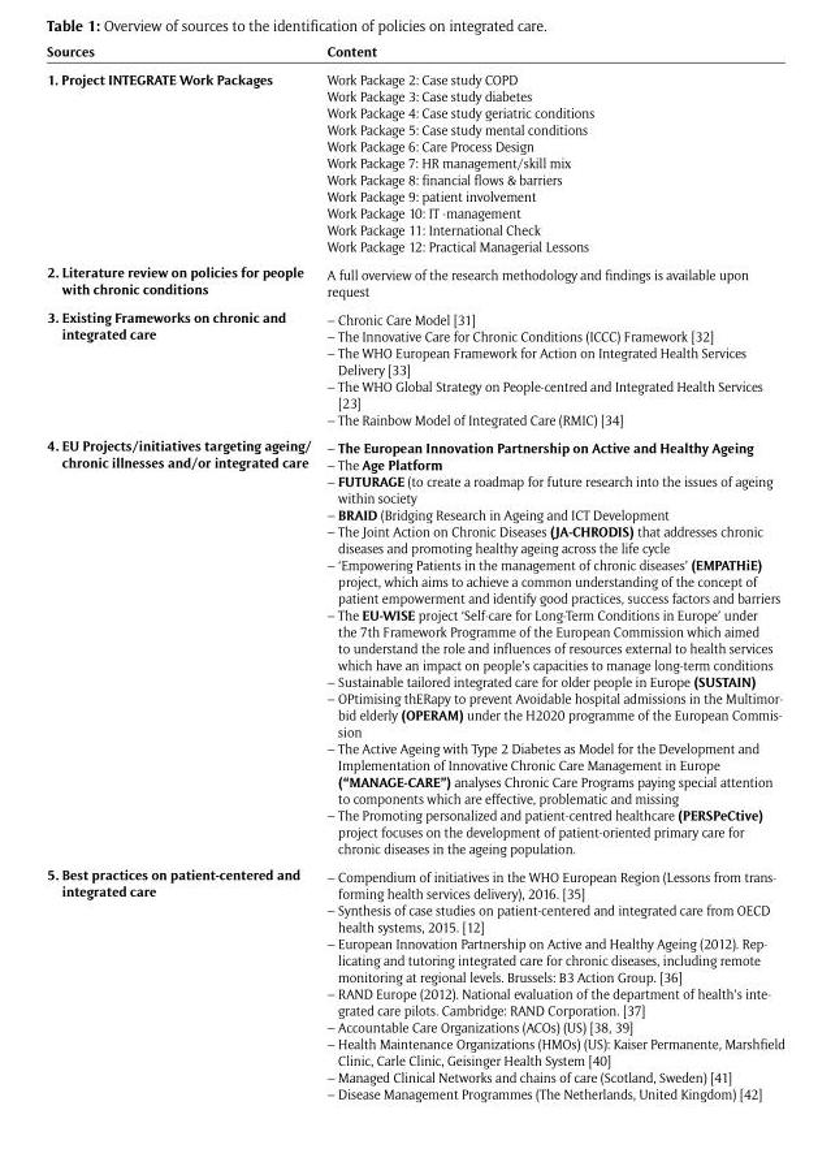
<table><thead><tr><td>Sources</td><td>Content</td></tr></thead><tbody><tr><td>1. Project INTEGRATE Work Packages</td><td>Work Package 2: Case study COPD Work Package 3: Case study diabetes Work Package 4: Case study geriatric conditions Work Package 5: Case study mental conditions Work Package 6: Care Process Design Work Package 7: HR management/skill mix Work Package 8: financial flows &amp; barriers Work Package 9: patient involvement Work Package 10: IT -management Work Package 11: International Check Work Package 12: Practical Managerial Lessons</td></tr><tr><td>2. Literature review on policies for people with chronic conditions</td><td>A full overview of the research methodology and findings is available upon request</td></tr><tr><td>3. Existing Frameworks on chronic and integrated care</td><td>– Chronic Care Model [31] – The Innovative Care for Chronic Conditions (ICCC) Framework [32] – The WHO European Framework for Action on Integrated Health Services Delivery [33] – The WHO Global Strategy on People-centred and Integrated Health Services [23] – The Rainbow Model of Integrated Care (RMIC) [34]</td></tr><tr><td>4. EU Projects/initiatives targeting ageing/ chronic illnesses and/or integrated care</td><td>– The European Innovation Partnership on Active and Healthy Ageing – The Age Platform – FUTURAGE (to create a roadmap for future research into the issues of ageing within society – BRAID (Bridging Research in Ageing and ICT Development – The Joint Action on Chronic Diseases (JA-CHRODIS) that addresses chronic diseases and promoting healthy ageing across the life cycle – ‘Empowering Patients in the management of chronic diseases’ (EMPATHiE) project, which aims to achieve a common understanding of the concept of patient empowerment and identify good practices, success factors and barriers – The EU-WISE project ‘Self-care for Long-Term Conditions in Europe’ under the 7th Framework Programme of the European Commission which aimed to understand the role and influences of resources external to health services which have an impact on people’s capacities to manage long-term conditions – Sustainable tailored integrated care for older people in Europe (SUSTAIN) – OPtimising thERapy to prevent Avoidable hospital admissions in the Multimor- bid elderly (OPERAM) under the H2020 programme of the European Commis- sion – The Active Ageing with Type 2 Diabetes as Model for the Development and Implementation of Innovative Chronic Care Management in Europe (“MANAGE-CARE”) analyses Chronic Care Programs paying special attention to components which are effective, problematic and missing – The Promoting personalized and patient-centred healthcare (PERSPeCtive) project focuses on the development of patient-oriented primary care for chronic diseases in the ageing population.</td></tr><tr><td>5. Best practices on patient-centered and integrated care</td><td>– Compendium of initiatives in the WHO European Region (Lessons from trans- forming health services delivery), 2016. [35] – Synthesis of case studies on patient-centered and integrated care from OECD health systems, 2015. [12] – European Innovation Partnership on Active and Healthy Ageing (2012). Rep- licating and tutoring integrated care for chronic diseases, including remote monitoring at regional levels. Brussels: B3 Action Group. [36] – RAND Europe (2012). National evaluation of the department of health’s inte- grated care pilots. Cambridge: RAND Corporation. [37] – Accountable Care Organizations (ACOs) (US) [38, 39] – Health Maintenance Organizations (HMOs) (US): Kaiser Permanente, Marshfield Clinic, Carle Clinic, Geisinger Health System [40] – Managed Clinical Networks and chains of care (Scotland, Sweden) [41] – Disease Management Programmes (The Netherlands, United Kingdom) [42]</td></tr></tbody></table>